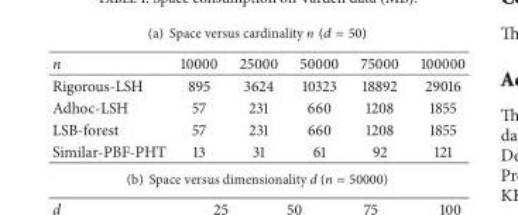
<table><thead><tr><td>n</td><td>10000</td><td>25000</td><td>50000</td><td>75000</td><td>100000</td></tr></thead><tbody><tr><td>Rigorous-LSH</td><td>895</td><td>3624</td><td>10323</td><td>18892</td><td>29016</td></tr><tr><td>Adhoc-LSH</td><td>57</td><td>231</td><td>660</td><td>1208</td><td>1855</td></tr><tr><td>LSB-forest</td><td>57</td><td>231</td><td>660</td><td>1208</td><td>1855</td></tr><tr><td>Similar-PBF-PHT</td><td>13</td><td>31</td><td>61</td><td>92</td><td>121</td></tr></tbody></table>